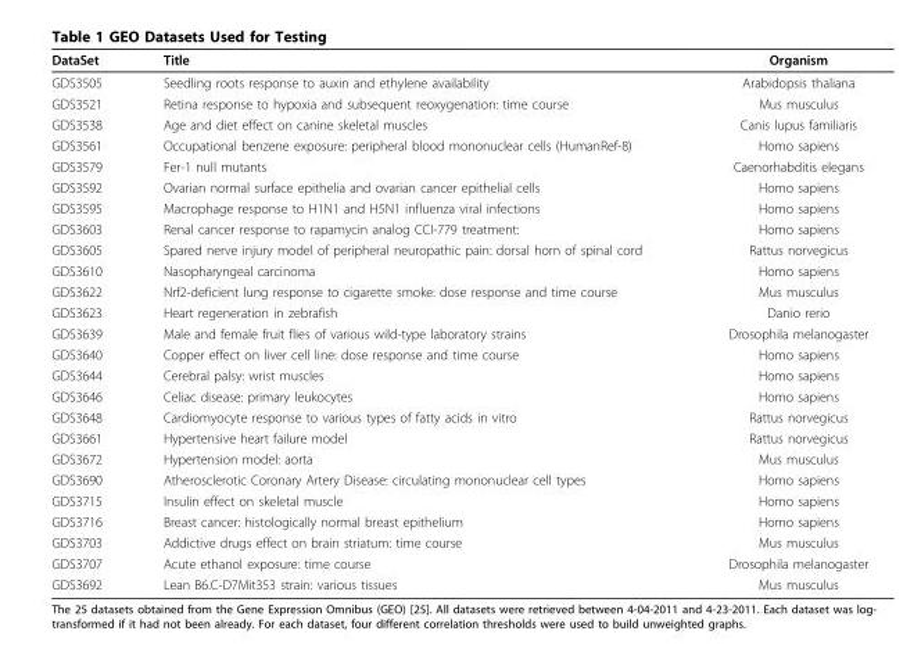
<table><thead><tr><td>DataSet</td><td>Title</td><td>Organism</td></tr></thead><tbody><tr><td>GDS3505</td><td>Seedling roots response to auxin and ethylene availability</td><td>Arabidopsis thaliana</td></tr><tr><td>GDS3521</td><td>Retina response to hypoxia and subsequent reoxygenation: time course</td><td>Mus musculus</td></tr><tr><td>GDS3538</td><td>Age and diet effect on canine skeletal muscles</td><td>Canis lupus familiaris</td></tr><tr><td>GDS3561</td><td>Occupational benzene exposure: peripheral blood mononuclear cells (HumanRef-8)</td><td>Homo sapiens</td></tr><tr><td>GDS3579</td><td>Fer-1 null mutants</td><td>Caenorhabditis elegans</td></tr><tr><td>GDS3592</td><td>Ovarian normal surface epithelia and ovarian cancer epithelial cells</td><td>Homo sapiens</td></tr><tr><td>GDS3595</td><td>Macrophage response to H1N1 and H5N1 influenza viral infections</td><td>Homo sapiens</td></tr><tr><td>GDS3603</td><td>Renal cancer response to rapamycin analog CCI-779 treatment:</td><td>Homo sapiens</td></tr><tr><td>GDS3605</td><td>Spared nerve injury model of peripheral neuropathic pain: dorsal horn of spinal cord</td><td>Rattus norvegicus</td></tr><tr><td>GDS3610</td><td>Nasopharyngeal carcinoma</td><td>Homo sapiens</td></tr><tr><td>GDS3622</td><td>Nrf2-deficient lung response to cigarette smoke: dose response and time course</td><td>Mus musculus</td></tr><tr><td>GDS3623</td><td>Heart regeneration in zebrafish</td><td>Danio rerio</td></tr><tr><td>GDS3639</td><td>Male and female fruit flies of various wild-type laboratory strains</td><td>Drosophila melanogaster</td></tr><tr><td>GDS3640</td><td>Copper effect on liver cell line: dose response and time course</td><td>Homo sapiens</td></tr><tr><td>GDS3644</td><td>Cerebral palsy: wrist muscles</td><td>Homo sapiens</td></tr><tr><td>GDS3646</td><td>Celiac disease: primary leukocytes</td><td>Homo sapiens</td></tr><tr><td>GDS3648</td><td>Cardiomyocyte response to various types of fatty acids in vitro</td><td>Rattus norvegicus</td></tr><tr><td>GDS3661</td><td>Hypertensive heart failure model</td><td>Rattus norvegicus</td></tr><tr><td>GDS3672</td><td>Hypertension model: aorta</td><td>Mus musculus</td></tr><tr><td>GDS3690</td><td>Atherosclerotic Coronary Artery Disease: circulating mononuclear cell types</td><td>Homo sapiens</td></tr><tr><td>GDS3715</td><td>Insulin effect on skeletal muscle</td><td>Homo sapiens</td></tr><tr><td>GDS3716</td><td>Breast cancer: histologically normal breast epithelium</td><td>Homo sapiens</td></tr><tr><td>GDS3703</td><td>Addictive drugs effect on brain striatum: time course</td><td>Mus musculus</td></tr><tr><td>GDS3707</td><td>Acute ethanol exposure: time course</td><td>Drosophila melanogaster</td></tr><tr><td>GDS3692</td><td>Lean B6.C-D7Mit353 strain: various tissues</td><td>Mus musculus</td></tr></tbody></table>